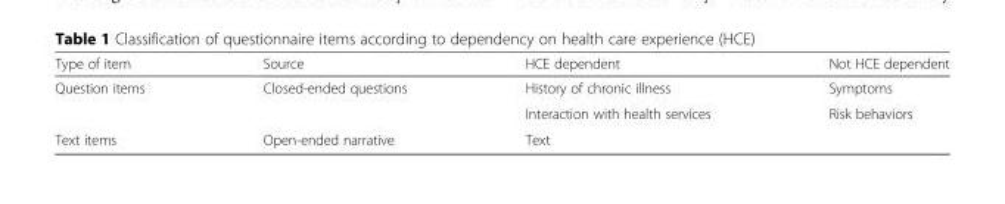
<table><thead><tr><td>Type of item</td><td>Source</td><td>HCE dependent</td><td>Not HCE dependent</td></tr></thead><tbody><tr><td rowspan="2">Question items</td><td rowspan="2">Closed-ended questions</td><td>History of chronic illness</td><td>Symptoms</td></tr><tr><td>Interaction with health services</td><td>Risk behaviors</td></tr><tr><td>Text items</td><td>Open-ended narrative</td><td>Text</td><td></td></tr></tbody></table>